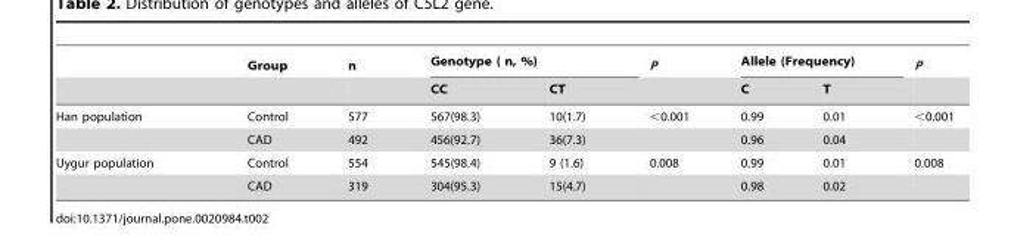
<table><thead><tr><td rowspan="2"></td><td rowspan="2">Group</td><td rowspan="2">n</td><td colspan="2">Genotype ( n, %)</td><td rowspan="2">P</td><td colspan="2">Allele (Frequency)</td><td rowspan="2">P</td></tr><tr><td>CC</td><td>CT</td><td>C</td><td>T</td></tr></thead><tbody><tr><td rowspan="2">Han population</td><td>Control</td><td>577</td><td>567(98.3)</td><td>10(1.7)</td><td>&lt;0.001</td><td>0.99</td><td>0.01</td><td>&lt;0.001</td></tr><tr><td>CAD</td><td>492</td><td>456(92.7)</td><td>36(7.3)</td><td></td><td>0.96</td><td>0.04</td><td></td></tr><tr><td rowspan="2">Uygur population</td><td>Control</td><td>554</td><td>545(98.4)</td><td>9 (1.6)</td><td>0.008</td><td>0.99</td><td>0.01</td><td>0.008</td></tr><tr><td>CAD</td><td>319</td><td>304(95.3)</td><td>15(4.7)</td><td></td><td>0.98</td><td>0.02</td><td></td></tr></tbody></table>